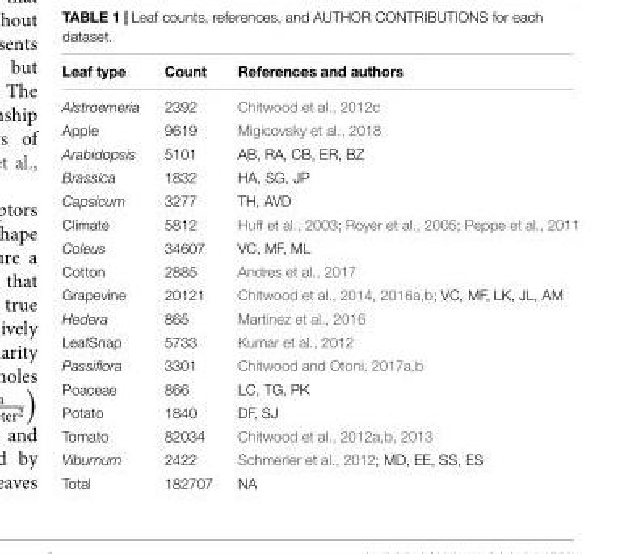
<table><thead><tr><td>Leaf type</td><td>Count</td><td>References and authors</td></tr></thead><tbody><tr><td>Alstroemeria</td><td>2392</td><td>Chitwood et al., 2012c</td></tr><tr><td>Apple</td><td>9619</td><td>Migicovsky et al., 2018</td></tr><tr><td>Arabidopsis</td><td>5101</td><td>AB, RA, CB, ER, BZ</td></tr><tr><td>Brassica</td><td>1832</td><td>HA, SG, JP</td></tr><tr><td>Capsicum</td><td>3277</td><td>TH, AVD</td></tr><tr><td>Climate</td><td>5812</td><td>Huff et al., 2003; Royer et al., 2005; Peppe et al., 2011</td></tr><tr><td>Coleus</td><td>34607</td><td>VC, MF, ML</td></tr><tr><td>Cotton</td><td>2885</td><td>Andres et al., 2017</td></tr><tr><td>Grapevine</td><td>20121</td><td>Chitwood et al., 2014, 2016a,b; VC, MF, LK, JL, AM</td></tr><tr><td>Hedera</td><td>865</td><td>Martinez et al., 2016</td></tr><tr><td>LeafSnap</td><td>5733</td><td>Kumar et al., 2012</td></tr><tr><td>Passiflora</td><td>3301</td><td>Chitwood and Otoni, 2017a,b</td></tr><tr><td>Poaceae</td><td>866</td><td>LC, TG, PK</td></tr><tr><td>Potato</td><td>1840</td><td>DF, SJ</td></tr><tr><td>Tomato</td><td>82034</td><td>Chitwood et al., 2012a,b, 2013</td></tr><tr><td>Viburnum</td><td>2422</td><td>Schmerler et al., 2012; MD, EE, SS, ES</td></tr><tr><td>Total</td><td>182707</td><td>NA</td></tr></tbody></table>